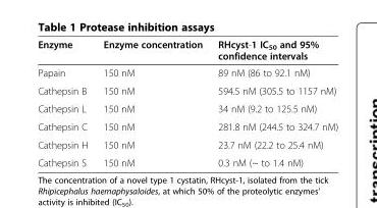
<table><thead><tr><td>Enzyme</td><td>Enzyme concentration</td><td>RHcyst-1 IC<sub>50</sub> and 95% confidence intervals</td></tr></thead><tbody><tr><td>Papain</td><td>150 nM</td><td>89 nM (86 to 92.1 nM)</td></tr><tr><td>Cathepsin B</td><td>150 nM</td><td>594.5 nM (305.5 to 1157 nM)</td></tr><tr><td>Cathepsin L</td><td>150 nM</td><td>34 nM (9.2 to 125.5 nM)</td></tr><tr><td>Cathepsin C</td><td>150 nM</td><td>281.8 nM (244.5 to 324.7 nM)</td></tr><tr><td>Cathepsin H</td><td>150 nM</td><td>23.7 nM (22.2 to 25.4 nM)</td></tr><tr><td>Cathepsin S</td><td>150 nM</td><td>0.3 nM (~ to 1.4 nM)</td></tr></tbody></table>